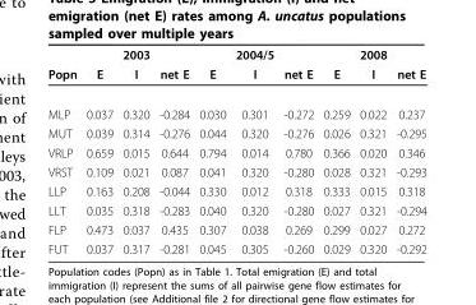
<table><thead><tr><td rowspan="2">Popn</td><td rowspan="2">E</td><td rowspan="2">2003 I</td><td rowspan="2">net E</td><td rowspan="2">E</td><td rowspan="2">2004/5 I</td><td rowspan="2">net E</td><td rowspan="2">E</td><td rowspan="2">2008 I</td><td rowspan="2">net E</td></tr><tr></tr></thead><tbody><tr><td>MLP</td><td>0.037</td><td>0.320</td><td>-0.284</td><td>0.030</td><td>0.301</td><td>-0.272</td><td>0.259</td><td>0.022</td><td>0.237</td></tr><tr><td>MUT</td><td>0.039</td><td>0.314</td><td>-0.276</td><td>0.044</td><td>0.320</td><td>-0.276</td><td>0.026</td><td>0.321</td><td>-0.295</td></tr><tr><td>VRLP</td><td>0.659</td><td>0.015</td><td>0.644</td><td>0.794</td><td>0.014</td><td>0.780</td><td>0.366</td><td>0.020</td><td>0.346</td></tr><tr><td>VRST</td><td>0.109</td><td>0.021</td><td>0.087</td><td>0.041</td><td>0.320</td><td>-0.280</td><td>0.028</td><td>0.321</td><td>-0.293</td></tr><tr><td>LLP</td><td>0.163</td><td>0.208</td><td>-0.044</td><td>0.330</td><td>0.012</td><td>0.318</td><td>0.333</td><td>0.015</td><td>0.318</td></tr><tr><td>LLT</td><td>0.035</td><td>0.318</td><td>-0.283</td><td>0.040</td><td>0.320</td><td>-0.280</td><td>0.027</td><td>0.321</td><td>-0.294</td></tr><tr><td>FLP</td><td>0.473</td><td>0.037</td><td>0.435</td><td>0.307</td><td>0.038</td><td>0.269</td><td>0.299</td><td>0.027</td><td>0.272</td></tr><tr><td>FUT</td><td>0.037</td><td>0.317</td><td>-0.281</td><td>0.045</td><td>0.305</td><td>-0.260</td><td>0.029</td><td>0.320</td><td>-0.292</td></tr></tbody></table>